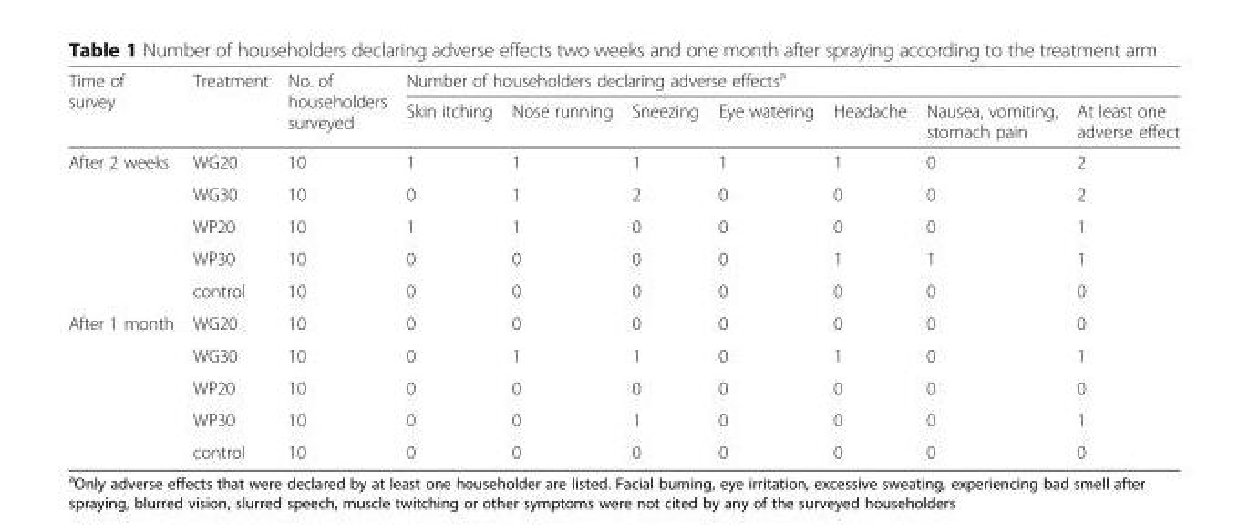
<table><thead><tr><td rowspan="2">Time of survey</td><td rowspan="2">Treatment</td><td rowspan="2">No. of householders surveyed</td><td colspan="7">Number of householders declaring adverse effects<sup>a</sup></td></tr><tr><td>Skin itching</td><td>Nose running</td><td>Sneezing</td><td>Eye watering</td><td>Headache</td><td>Nausea, vomiting, stomach pain</td><td>At least one adverse effect</td></tr></thead><tbody><tr><td rowspan="5">After 2 weeks</td><td>WG20</td><td>10</td><td>1</td><td>1</td><td>1</td><td>1</td><td>1</td><td>0</td><td>2</td></tr><tr><td>WG30</td><td>10</td><td>0</td><td>1</td><td>2</td><td>0</td><td>0</td><td>0</td><td>2</td></tr><tr><td>WP20</td><td>10</td><td>1</td><td>1</td><td>0</td><td>0</td><td>0</td><td>0</td><td>1</td></tr><tr><td>WP30</td><td>10</td><td>0</td><td>0</td><td>0</td><td>0</td><td>1</td><td>1</td><td>1</td></tr><tr><td>control</td><td>10</td><td>0</td><td>0</td><td>0</td><td>0</td><td>0</td><td>0</td><td>0</td></tr><tr><td rowspan="5">After 1 month</td><td>WG20</td><td>10</td><td>0</td><td>0</td><td>0</td><td>0</td><td>0</td><td>0</td><td>0</td></tr><tr><td>WG30</td><td>10</td><td>0</td><td>1</td><td>1</td><td>0</td><td>1</td><td>0</td><td>1</td></tr><tr><td>WP20</td><td>10</td><td>0</td><td>0</td><td>0</td><td>0</td><td>0</td><td>0</td><td>0</td></tr><tr><td>WP30</td><td>10</td><td>0</td><td>0</td><td>1</td><td>0</td><td>0</td><td>0</td><td>1</td></tr><tr><td>control</td><td>10</td><td>0</td><td>0</td><td>0</td><td>0</td><td>0</td><td>0</td><td>0</td></tr></tbody></table>